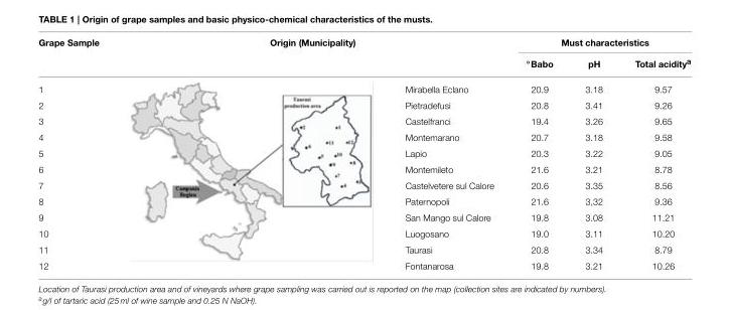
<table><thead><tr><td rowspan="2">Grape Sample</td><td rowspan="2">Origin (Municipality)</td><td rowspan="2"></td><td colspan="3">Must characteristics</td></tr><tr><td>◦Babo</td><td>pH</td><td>Total acidity<sup>a</sup></td></tr></thead><tbody><tr><td>1</td><td rowspan="12"></td><td>Mirabella Eclano</td><td>20.9</td><td>3.18</td><td>9.57</td></tr><tr><td>2</td><td>Pietradefusi</td><td>20.8</td><td>3.41</td><td>9.26</td></tr><tr><td>3</td><td>Castelfranci</td><td>19.4</td><td>3.26</td><td>9.65</td></tr><tr><td>4</td><td>Montemarano</td><td>20.7</td><td>3.18</td><td>9.58</td></tr><tr><td>5</td><td>Lapio</td><td>20.3</td><td>3.22</td><td>9.05</td></tr><tr><td>6</td><td>Montemileto</td><td>21.6</td><td>3.21</td><td>8.78</td></tr><tr><td>7</td><td>Castelvetere sul Calore</td><td>20.6</td><td>3.35</td><td>8.56</td></tr><tr><td>8</td><td>Paternopoli</td><td>21.6</td><td>3,32</td><td>9.36</td></tr><tr><td>9</td><td>San Mango sul Calore</td><td>19.8</td><td>3.08</td><td>11.21</td></tr><tr><td>10</td><td>Luogosano</td><td>19.0</td><td>3.11</td><td>10.20</td></tr><tr><td>11</td><td>Taurasi</td><td>20.8</td><td>3.34</td><td>8.79</td></tr><tr><td>12</td><td>Fontanarosa</td><td>19.8</td><td>3.21</td><td>10.26</td></tr></tbody></table>